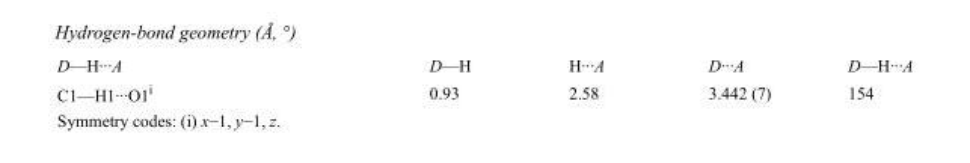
<table><tbody><tr><td>D—H···A</td><td>D—H</td><td>H···A</td><td>D···A</td><td>D—H···A</td></tr><tr><td>C1—H1···O1<sup>i</sup></td><td>0.93</td><td>2.58</td><td>3.442 (7)</td><td>154</td></tr></tbody></table>